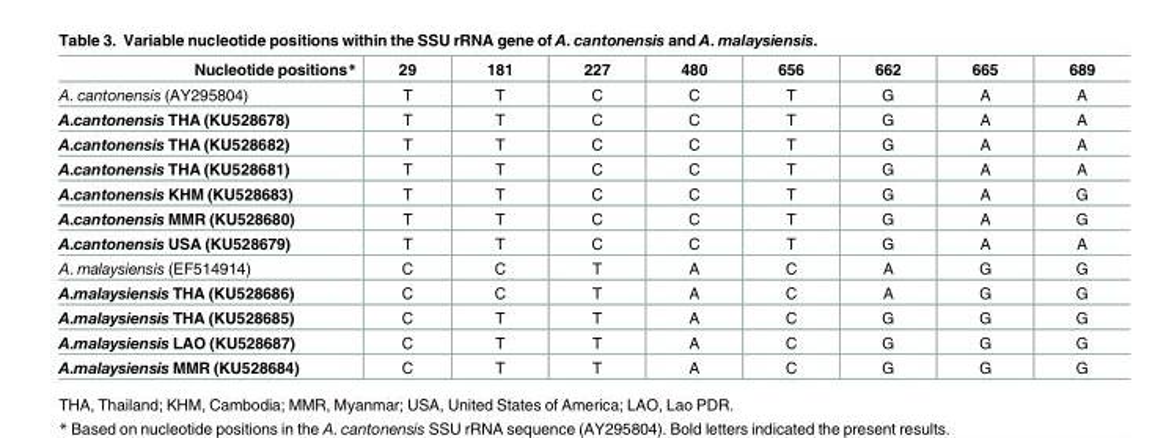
<table><thead><tr><td>Nucleotide positions*</td><td>29</td><td>181</td><td>227</td><td>480</td><td>656</td><td>662</td><td>665</td><td>689</td></tr></thead><tbody><tr><td>A. cantonensis (AY295804)</td><td>T</td><td>T</td><td>C</td><td>C</td><td>T</td><td>G</td><td>A</td><td>A</td></tr><tr><td>A.cantonensis THA (KU528678)</td><td>T</td><td>T</td><td>C</td><td>C</td><td>T</td><td>G</td><td>A</td><td>A</td></tr><tr><td>A.cantonensis THA (KU528682)</td><td>T</td><td>T</td><td>C</td><td>C</td><td>T</td><td>G</td><td>A</td><td>A</td></tr><tr><td>A.cantonensis THA (KU528681)</td><td>T</td><td>T</td><td>C</td><td>C</td><td>T</td><td>G</td><td>A</td><td>A</td></tr><tr><td>A.cantonensis KHM (KU528683)</td><td>T</td><td>T</td><td>C</td><td>C</td><td>T</td><td>G</td><td>A</td><td>G</td></tr><tr><td>A.cantonensis MMR (KU528680)</td><td>T</td><td>T</td><td>C</td><td>C</td><td>T</td><td>G</td><td>A</td><td>G</td></tr><tr><td>A.cantonensis USA (KU528679)</td><td>T</td><td>T</td><td>C</td><td>C</td><td>T</td><td>G</td><td>A</td><td>A</td></tr><tr><td>A. malaysiensis (EF514914)</td><td>C</td><td>C</td><td>T</td><td>A</td><td>C</td><td>A</td><td>G</td><td>G</td></tr><tr><td>A.malaysiensis THA (KU528686)</td><td>C</td><td>C</td><td>T</td><td>A</td><td>C</td><td>A</td><td>G</td><td>G</td></tr><tr><td>A.malaysiensis THA (KU528685)</td><td>C</td><td>T</td><td>T</td><td>A</td><td>C</td><td>G</td><td>G</td><td>G</td></tr><tr><td>A.malaysiensis LAO (KU528687)</td><td>C</td><td>T</td><td>T</td><td>A</td><td>C</td><td>G</td><td>G</td><td>G</td></tr><tr><td>A.malaysiensis MMR (KU528684)</td><td>C</td><td>T</td><td>T</td><td>A</td><td>C</td><td>G</td><td>G</td><td>G</td></tr></tbody></table>